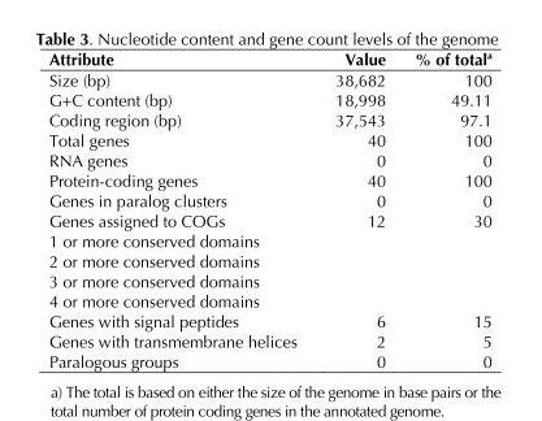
<table><thead><tr><td>Attribute</td><td>Value</td><td>% of total<sup>a</sup></td></tr></thead><tbody><tr><td>Size (bp)</td><td>38,682</td><td>100</td></tr><tr><td>G+C content (bp)</td><td>18,998</td><td>49.11</td></tr><tr><td>Coding region (bp)</td><td>37,543</td><td>97.1</td></tr><tr><td>Total genes</td><td>40</td><td>100</td></tr><tr><td>RNA genes</td><td>0</td><td>0</td></tr><tr><td>Protein-coding genes</td><td>40</td><td>100</td></tr><tr><td>Genes in paralog clusters</td><td>0</td><td>0</td></tr><tr><td>Genes assigned to COGs</td><td>12</td><td>30</td></tr><tr><td colspan="3">1 or more conserved domains</td></tr><tr><td colspan="3">2 or more conserved domains</td></tr><tr><td colspan="3">3 or more conserved domains</td></tr><tr><td colspan="3">4 or more conserved domains</td></tr><tr><td>Genes with signal peptides</td><td>6</td><td>15</td></tr><tr><td>Genes with transmembrane helices</td><td>2</td><td>5</td></tr><tr><td>Paralogous groups</td><td>0</td><td>0</td></tr></tbody></table>